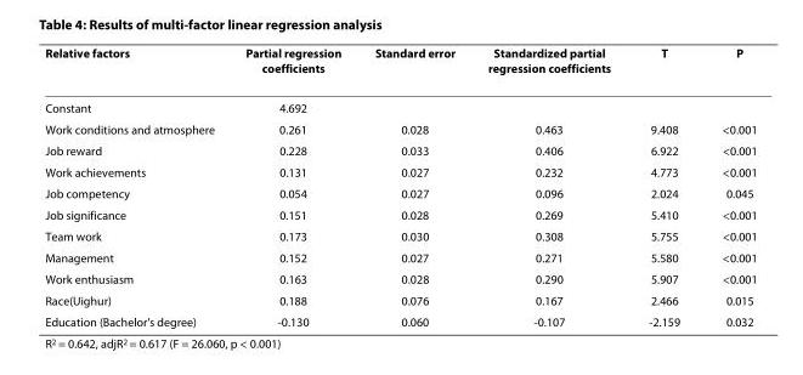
<table><thead><tr><td>Relative factors</td><td>Partial regression coefficients</td><td>Standard error</td><td>Standardized partial regression coefficients</td><td>T</td><td>P</td></tr></thead><tbody><tr><td>Constant</td><td>4.692</td><td></td><td></td><td></td><td></td></tr><tr><td>Work conditions and atmosphere</td><td>0.261</td><td>0.028</td><td>0.463</td><td>9.408</td><td>&lt;0.001</td></tr><tr><td>Job reward</td><td>0.228</td><td>0.033</td><td>0.406</td><td>6.922</td><td>&lt;0.001</td></tr><tr><td>Work achievements</td><td>0.131</td><td>0.027</td><td>0.232</td><td>4.773</td><td>&lt;0.001</td></tr><tr><td>Job competency</td><td>0.054</td><td>0.027</td><td>0.096</td><td>2.024</td><td>0.045</td></tr><tr><td>Job significance</td><td>0.151</td><td>0.028</td><td>0.269</td><td>5.410</td><td>&lt;0.001</td></tr><tr><td>Team work</td><td>0.173</td><td>0.030</td><td>0.308</td><td>5.755</td><td>&lt;0.001</td></tr><tr><td>Management</td><td>0.152</td><td>0.027</td><td>0.271</td><td>5.580</td><td>&lt;0.001</td></tr><tr><td>Work enthusiasm</td><td>0.163</td><td>0.028</td><td>0.290</td><td>5.907</td><td>&lt;0.001</td></tr><tr><td>Race(Uighur)</td><td>0.188</td><td>0.076</td><td>0.167</td><td>2.466</td><td>0.015</td></tr><tr><td>Education (Bachelor&#x27;s degree)</td><td>-0.130</td><td>0.060</td><td>-0.107</td><td>-2.159</td><td>0.032</td></tr></tbody></table>